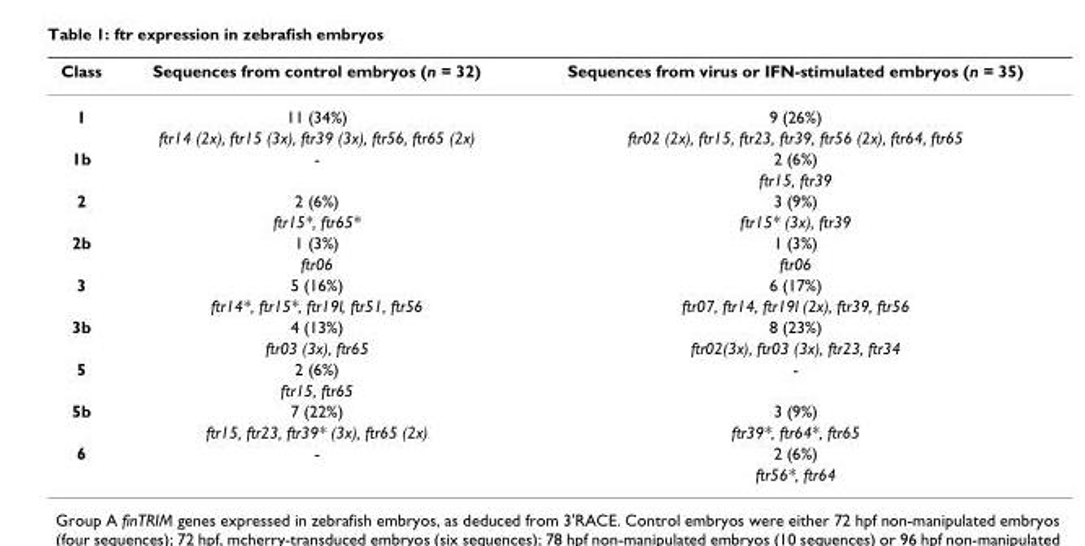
<table><thead><tr><td>Class</td><td>Sequences from control embryos (n = 32)</td><td>Sequences from virus or IFN-stimulated embryos (n = 35)</td></tr></thead><tbody><tr><td rowspan="2">1</td><td>11 (34%)</td><td>9 (26%)</td></tr><tr><td>ftr14 (2x), ftr15 (3x), ftr39 (3x), ftr56, ftr65 (2x)</td><td>ftr02 (2x), ftr15, ftr23, ftr39, ftr56 (2x), ftr64, ftr65</td></tr><tr><td rowspan="2">1b</td><td>-</td><td>2 (6%)</td></tr><tr><td></td><td>ftr15, ftr39</td></tr><tr><td rowspan="2">2</td><td>2 (6%)</td><td>3 (9%)</td></tr><tr><td>ftr15*, ftr65*</td><td>ftr15* (3x), ftr39</td></tr><tr><td rowspan="2">2b</td><td>1 (3%)</td><td>1 (3%)</td></tr><tr><td>ftr06</td><td>ftr06</td></tr><tr><td rowspan="2">3</td><td>5 (16%)</td><td>6 (17%)</td></tr><tr><td>ftr14*, ftr15*, ftr19l, ftr51, ftr56</td><td>ftr07, ftr14, ftr19l (2x), ftr39, ftr56</td></tr><tr><td rowspan="2">3b</td><td>4 (13%)</td><td>8 (23%)</td></tr><tr><td>ftr03 (3x), ftr65</td><td>ftr02(3x), ftr03 (3x), ftr23, ftr34</td></tr><tr><td rowspan="2">5</td><td>2 (6%)</td><td>-</td></tr><tr><td>ftr15, ftr65</td><td></td></tr><tr><td rowspan="2">5b</td><td>7 (22%)</td><td>3 (9%)</td></tr><tr><td>ftr15, ftr23, ftr39* (3x), ftr65 (2x)</td><td>ftr39*, ftr64*, ftr65</td></tr><tr><td rowspan="2">6</td><td>-</td><td>2 (6%)</td></tr><tr><td></td><td>ftr56*, ftr64</td></tr></tbody></table>